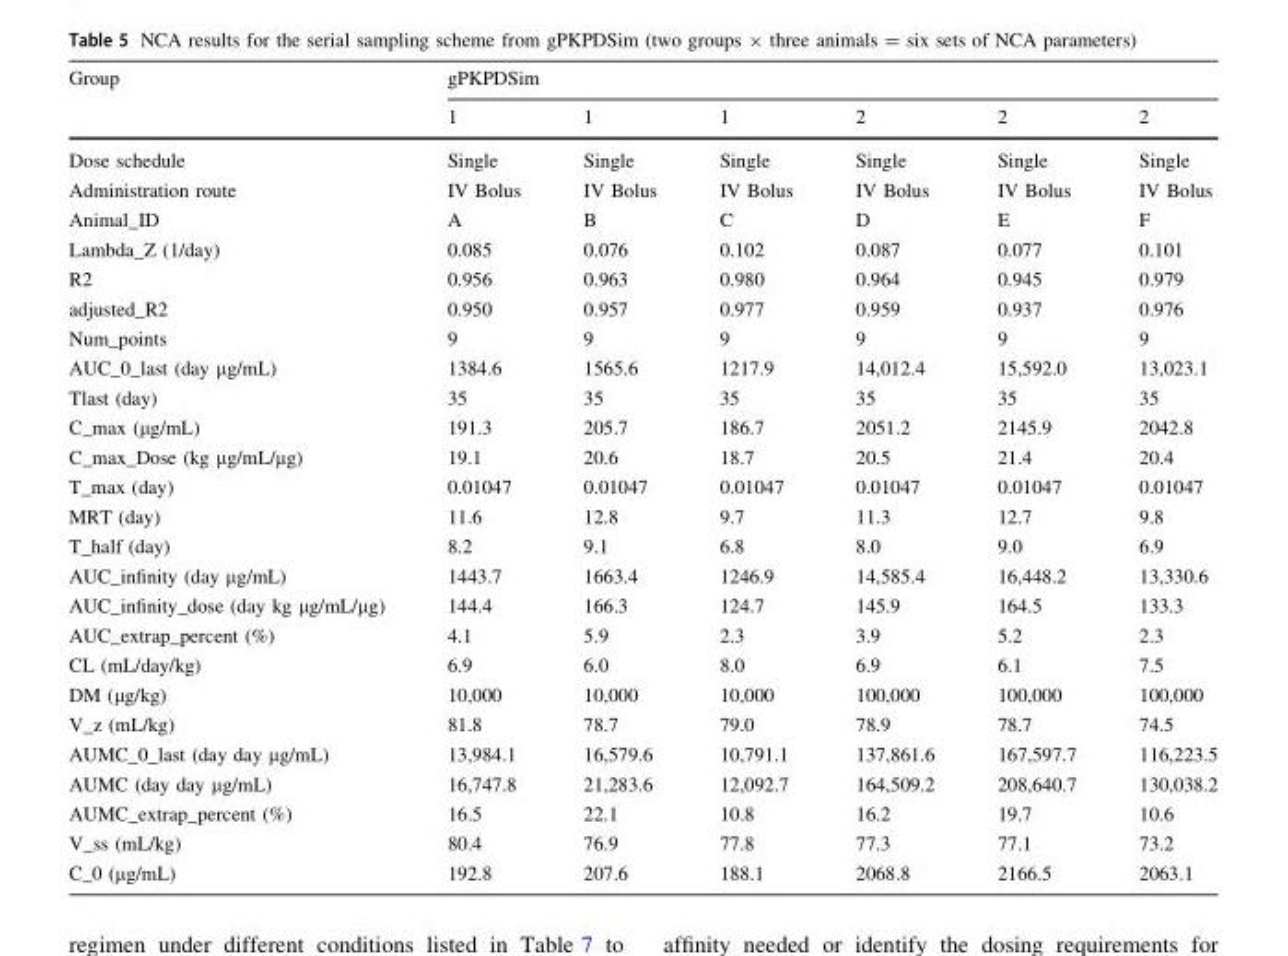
<table><thead><tr><td rowspan="2">Group</td><td colspan="6">gPKPDSim</td></tr><tr><td>1</td><td>1</td><td>1</td><td>2</td><td>2</td><td>2</td></tr></thead><tbody><tr><td>Dose schedule</td><td>Single</td><td>Single</td><td>Single</td><td>Single</td><td>Single</td><td>Single</td></tr><tr><td>Administration route</td><td>IV Bolus</td><td>IV Bolus</td><td>IV Bolus</td><td>IV Bolus</td><td>IV Bolus</td><td>IV Bolus</td></tr><tr><td>Animal_ID</td><td>A</td><td>B</td><td>C</td><td>D</td><td>E</td><td>F</td></tr><tr><td>Lambda_Z (1/day)</td><td>0.085</td><td>0.076</td><td>0.102</td><td>0.087</td><td>0.077</td><td>0.101</td></tr><tr><td>R2</td><td>0.956</td><td>0.963</td><td>0.980</td><td>0.964</td><td>0.945</td><td>0.979</td></tr><tr><td>adjusted_R2</td><td>0.950</td><td>0.957</td><td>0.977</td><td>0.959</td><td>0.937</td><td>0.976</td></tr><tr><td>Num_points</td><td>9</td><td>9</td><td>9</td><td>9</td><td>9</td><td>9</td></tr><tr><td>AUC_0_last (day μg/mL)</td><td>1384.6</td><td>1565.6</td><td>1217.9</td><td>14,012.4</td><td>15,592.0</td><td>13,023.1</td></tr><tr><td>Tlast (day)</td><td>35</td><td>35</td><td>35</td><td>35</td><td>35</td><td>35</td></tr><tr><td>C_max (μg/mL)</td><td>191.3</td><td>205.7</td><td>186.7</td><td>2051.2</td><td>2145.9</td><td>2042.8</td></tr><tr><td>C_max_Dose (kg μg/mL/μg)</td><td>19.1</td><td>20.6</td><td>18.7</td><td>20.5</td><td>21.4</td><td>20.4</td></tr><tr><td>T_max (day)</td><td>0.01047</td><td>0.01047</td><td>0.01047</td><td>0.01047</td><td>0.01047</td><td>0.01047</td></tr><tr><td>MRT (day)</td><td>11.6</td><td>12.8</td><td>9.7</td><td>11.3</td><td>12.7</td><td>9.8</td></tr><tr><td>T_half (day)</td><td>8.2</td><td>9.1</td><td>6.8</td><td>8.0</td><td>9.0</td><td>6.9</td></tr><tr><td>AUC_infinity (day μg/mL)</td><td>1443.7</td><td>1663.4</td><td>1246.9</td><td>14,585.4</td><td>16,448.2</td><td>13,330.6</td></tr><tr><td>AUC_infinity_dose (day kg μg/mL/μg)</td><td>144.4</td><td>166.3</td><td>124.7</td><td>145.9</td><td>164.5</td><td>133.3</td></tr><tr><td>AUC_extrap_percent (%)</td><td>4.1</td><td>5.9</td><td>2.3</td><td>3.9</td><td>5.2</td><td>2.3</td></tr><tr><td>CL (mL/day/kg)</td><td>6.9</td><td>6.0</td><td>8.0</td><td>6.9</td><td>6.1</td><td>7.5</td></tr><tr><td>DM (μg/kg)</td><td>10,000</td><td>10,000</td><td>10,000</td><td>100,000</td><td>100,000</td><td>100,000</td></tr><tr><td>V_z (mL/kg)</td><td>81.8</td><td>78.7</td><td>79.0</td><td>78.9</td><td>78.7</td><td>74.5</td></tr><tr><td>AUMC_0_last (day day μg/mL)</td><td>13,984.1</td><td>16,579.6</td><td>10,791.1</td><td>137,861.6</td><td>167,597.7</td><td>116,223.5</td></tr><tr><td>AUMC (day day μg/mL)</td><td>16,747.8</td><td>21,283.6</td><td>12,092.7</td><td>164,509.2</td><td>208,640.7</td><td>130,038.2</td></tr><tr><td>AUMC_extrap_percent (%)</td><td>16.5</td><td>22.1</td><td>10.8</td><td>16.2</td><td>19.7</td><td>10.6</td></tr><tr><td>V_ss (mL/kg)</td><td>80.4</td><td>76.9</td><td>77.8</td><td>77.3</td><td>77.1</td><td>73.2</td></tr><tr><td>C_0 (μg/mL)</td><td>192.8</td><td>207.6</td><td>188.1</td><td>2068.8</td><td>2166.5</td><td>2063.1</td></tr></tbody></table>